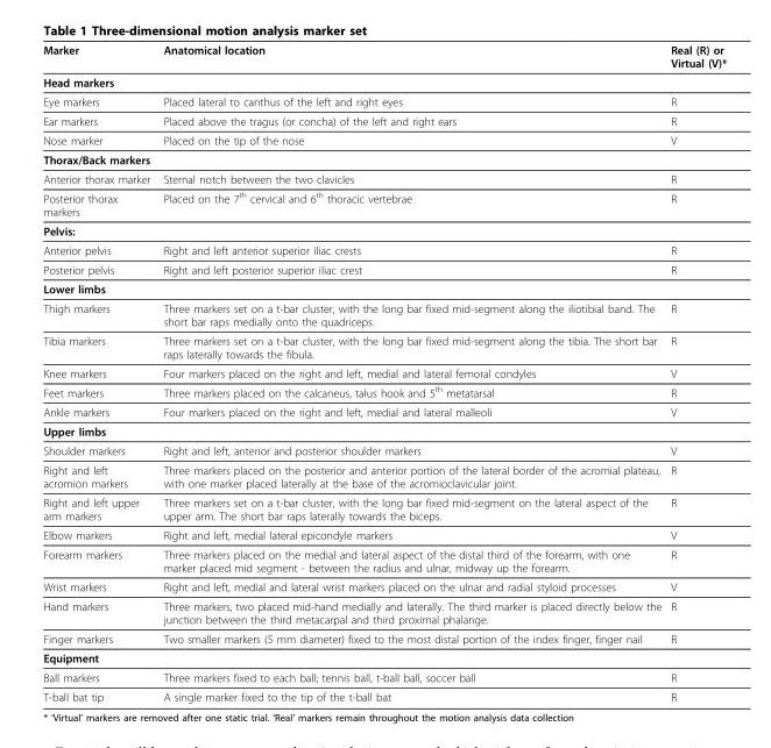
<table><thead><tr><td>Marker</td><td>Anatomical location</td><td>Real (R) or Virtual (V)*</td></tr></thead><tbody><tr><td colspan="3">Head markers</td></tr><tr><td>Eye markers</td><td>Placed lateral to canthus of the left and right eyes</td><td>R</td></tr><tr><td>Ear markers</td><td>Placed above the tragus (or concha) of the left and right ears</td><td>R</td></tr><tr><td>Nose marker</td><td>Placed on the tip of the nose</td><td>V</td></tr><tr><td colspan="3">Thorax/Back markers</td></tr><tr><td>Anterior thorax marker</td><td>Sternal notch between the two clavicles</td><td>R</td></tr><tr><td>Posterior thorax markers</td><td>Placed on the 7<sup>th</sup> cervical and 6<sup>th</sup> thoracic vertebrae</td><td>R</td></tr><tr><td colspan="3">Pelvis:</td></tr><tr><td>Anterior pelvis</td><td>Right and left anterior superior iliac crests</td><td>R</td></tr><tr><td>Posterior pelvis</td><td>Right and left posterior superior iliac crest</td><td>R</td></tr><tr><td colspan="3">Lower limbs</td></tr><tr><td>Thigh markers</td><td>Three markers set on a t-bar cluster, with the long bar fixed mid-segment along the iliotibial band. The short bar raps medially onto the quadriceps.</td><td>R</td></tr><tr><td>Tibia markers</td><td>Three markers set on a t-bar cluster, with the long bar fixed mid-segment along the tibia. The short bar raps laterally towards the fibula.</td><td>R</td></tr><tr><td>Knee markers</td><td>Four markers placed on the right and left, medial and lateral femoral condyles</td><td>V</td></tr><tr><td>Feet markers</td><td>Three markers placed on the calcaneus, talus hook and 5<sup>th</sup> metatarsal</td><td>R</td></tr><tr><td>Ankle markers</td><td>Four markers placed on the right and left, medial and lateral malleoli</td><td>V</td></tr><tr><td colspan="3">Upper limbs</td></tr><tr><td>Shoulder markers</td><td>Right and left, anterior and posterior shoulder markers</td><td>V</td></tr><tr><td>Right and left acromion markers</td><td>Three markers placed on the posterior and anterior portion of the lateral border of the acromial plateau, with one marker placed laterally at the base of the acromioclavicular joint.</td><td>R</td></tr><tr><td>Right and left upper arm markers</td><td>Three markers set on a t-bar cluster, with the long bar fixed mid-segment on the lateral aspect of the upper arm. The short bar raps laterally towards the biceps.</td><td>R</td></tr><tr><td>Elbow markers</td><td>Right and left, medial lateral epicondyle markers</td><td>V</td></tr><tr><td>Forearm markers</td><td>Three markers placed on the medial and lateral aspect of the distal third of the forearm, with one marker placed mid segment - between the radius and ulnar, midway up the forearm.</td><td>R</td></tr><tr><td>Wrist markers</td><td>Right and left, medial and lateral wrist markers placed on the ulnar and radial styloid processes</td><td>V</td></tr><tr><td>Hand markers</td><td>Three markers, two placed mid-hand medially and laterally. The third marker is placed directly below the junction between the third metacarpal and third proximal phalange.</td><td>R</td></tr><tr><td>Finger markers</td><td>Two smaller markers (5 mm diameter) fixed to the most distal portion of the index finger, finger nail</td><td>R</td></tr><tr><td colspan="3">Equipment</td></tr><tr><td>Ball markers</td><td>Three markers fixed to each ball; tennis ball, t-ball ball, soccer ball</td><td>R</td></tr><tr><td>T-ball bat tip</td><td>A single marker fixed to the tip of the t-ball bat</td><td>R</td></tr></tbody></table>